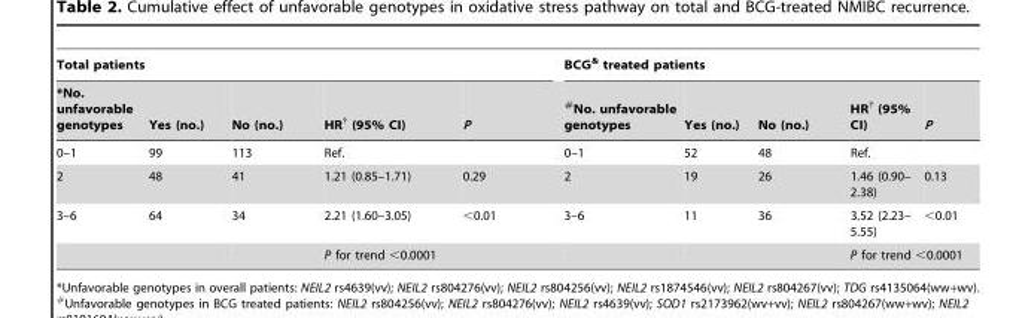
<table><thead><tr><td colspan="5">Total patients</td><td colspan="5">BCG&amp; treated patients</td></tr><tr><td>*No. unfavorable genotypes</td><td>Yes (no.)</td><td>No (no.)</td><td>HR† (95% CI)</td><td>P</td><td>#No. unfavorable genotypes</td><td>Yes (no.)</td><td>No (no.)</td><td>HR† (95% CI)</td><td>P</td></tr></thead><tbody><tr><td>0–1</td><td>99</td><td>113</td><td>Ref.</td><td></td><td>0–1</td><td>52</td><td>48</td><td>Ref.</td><td></td></tr><tr><td>2</td><td>48</td><td>41</td><td>1.21 (0.85–1.71)</td><td>0.29</td><td>2</td><td>19</td><td>26</td><td>1.46 (0.90– 2.38)</td><td>0.13</td></tr><tr><td rowspan="2">3–6</td><td>64</td><td>34</td><td>2.21 (1.60–3.05)</td><td>&lt;0.01</td><td>3–6</td><td>11</td><td>36</td><td>3.52 (2.23– 5.55)</td><td>&lt;0.01</td></tr><tr><td></td><td></td><td colspan="2">P for trend &lt;0.0001</td><td></td><td></td><td></td><td colspan="2">P for trend &lt;0.0001</td></tr></tbody></table>